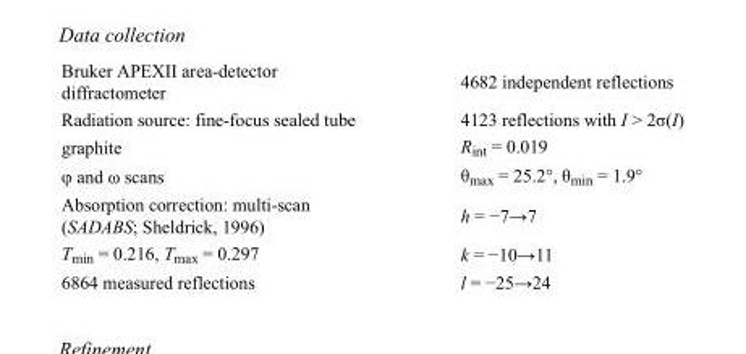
<table><tbody><tr><td>Bruker APEXII area-detector diffractometer</td><td>4682 independent reflections</td></tr><tr><td>Radiation source: fine-focus sealed tube</td><td>4123 reflections with I &gt; 2σ(I)</td></tr><tr><td>graphite</td><td>R<sub>int</sub> = 0.019</td></tr><tr><td>φ and ω scans</td><td>θ<sub>max</sub> = 25.2°, θ<sub>min</sub> = 1.9°</td></tr><tr><td>Absorption correction: multi-scan (SADABS; Sheldrick, 1996)</td><td>h = −7→7</td></tr><tr><td>T<sub>min</sub> = 0.216, T<sub>max</sub> = 0.297</td><td>k = −10→11</td></tr><tr><td>6864 measured reflections</td><td>l = −25→24</td></tr></tbody></table>